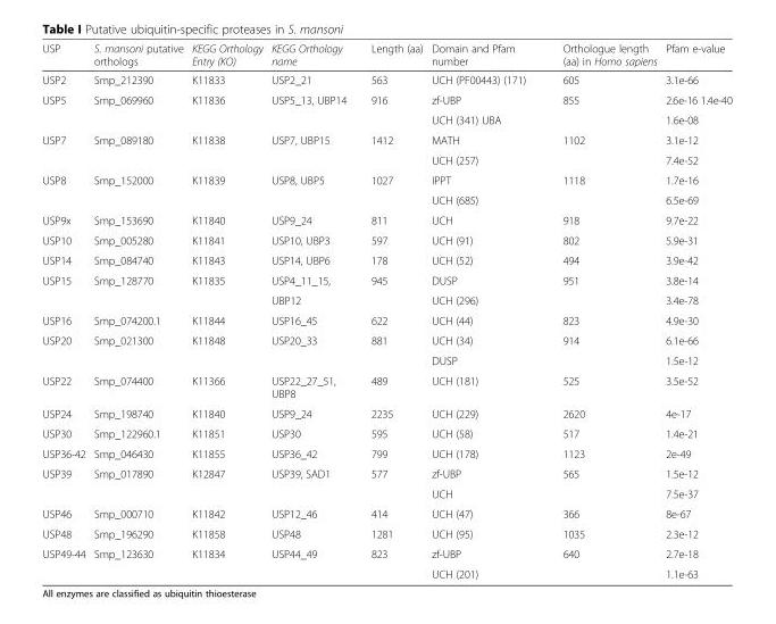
<table><thead><tr><td>USP</td><td>S. mansoni putative orthologs</td><td>KEGG Orthology Entry (KO)</td><td>KEGG Orthology name</td><td>Length (aa)</td><td>Domain and Pfam number</td><td>Orthologue length (aa) in Homo sapiens</td><td>Pfam e-value</td></tr></thead><tbody><tr><td>USP2</td><td>Smp_212390</td><td>K11833</td><td>USP2_21</td><td>563</td><td>UCH (PF00443) (171)</td><td>605</td><td>3.1e-66</td></tr><tr><td rowspan="2">USP5</td><td>Smp_069960</td><td>K11836</td><td>USP5_13, UBP14</td><td>916</td><td>zf-UBP</td><td>855</td><td>2.6e-16 1.4e-40</td></tr><tr><td></td><td></td><td></td><td></td><td>UCH (341) UBA</td><td></td><td>1.6e-08</td></tr><tr><td rowspan="2">USP7</td><td>Smp_089180</td><td>K11838</td><td>USP7, UBP15</td><td>1412</td><td>MATH</td><td>1102</td><td>3.1e-12</td></tr><tr><td></td><td></td><td></td><td></td><td>UCH (257)</td><td></td><td>7.4e-52</td></tr><tr><td rowspan="2">USP8</td><td>Smp_152000</td><td>K11839</td><td>USP8, UBP5</td><td>1027</td><td>IPPT</td><td>1118</td><td>1.7e-16</td></tr><tr><td></td><td></td><td></td><td></td><td>UCH (685)</td><td></td><td>6.5e-69</td></tr><tr><td>USP9x</td><td>Smp_153690</td><td>K11840</td><td>USP9_24</td><td>811</td><td>UCH</td><td>918</td><td>9.7e-22</td></tr><tr><td>USP10</td><td>Smp_005280</td><td>K11841</td><td>USP10, UBP3</td><td>597</td><td>UCH (91)</td><td>802</td><td>5.9e-31</td></tr><tr><td>USP14</td><td>Smp_084740</td><td>K11843</td><td>USP14, UBP6</td><td>178</td><td>UCH (52)</td><td>494</td><td>3.9e-42</td></tr><tr><td rowspan="2">USP15</td><td>Smp_128770</td><td>K11835</td><td>USP4_11_15,</td><td>945</td><td>DUSP</td><td>951</td><td>3.8e-14</td></tr><tr><td></td><td></td><td>UBP12</td><td></td><td>UCH (296)</td><td></td><td>3.4e-78</td></tr><tr><td>USP16</td><td>Smp_074200.1</td><td>K11844</td><td>USP16_45</td><td>622</td><td>UCH (44)</td><td>823</td><td>4.9e-30</td></tr><tr><td rowspan="2">USP20</td><td>Smp_021300</td><td>K11848</td><td>USP20_33</td><td>881</td><td>UCH (34)</td><td>914</td><td>6.1e-66</td></tr><tr><td></td><td></td><td></td><td></td><td>DUSP</td><td></td><td>1.5e-12</td></tr><tr><td>USP22</td><td>Smp_074400</td><td>K11366</td><td>USP22_27_51, UBP8</td><td>489</td><td>UCH (181)</td><td>525</td><td>3.5e-52</td></tr><tr><td>USP24</td><td>Smp_198740</td><td>K11840</td><td>USP9_24</td><td>2235</td><td>UCH (229)</td><td>2620</td><td>4e-17</td></tr><tr><td>USP30</td><td>Smp_122960.1</td><td>K11851</td><td>USP30</td><td>595</td><td>UCH (58)</td><td>517</td><td>1.4e-21</td></tr><tr><td>USP36-42</td><td>Smp_046430</td><td>K11855</td><td>USP36_42</td><td>799</td><td>UCH (178)</td><td>1123</td><td>2e-49</td></tr><tr><td rowspan="2">USP39</td><td>Smp_017890</td><td>K12847</td><td>USP39, SAD1</td><td>577</td><td>zf-UBP</td><td>565</td><td>1.5e-12</td></tr><tr><td></td><td></td><td></td><td></td><td>UCH</td><td></td><td>7.5e-37</td></tr><tr><td>USP46</td><td>Smp_000710</td><td>K11842</td><td>USP12_46</td><td>414</td><td>UCH (47)</td><td>366</td><td>8e-67</td></tr><tr><td>USP48</td><td>Smp_196290</td><td>K11858</td><td>USP48</td><td>1281</td><td>UCH (95)</td><td>1035</td><td>2.3e-12</td></tr><tr><td rowspan="2">USP49-44</td><td>Smp_123630</td><td>K11834</td><td>USP44_49</td><td>823</td><td>zf-UBP</td><td>640</td><td>2.7e-18</td></tr><tr><td></td><td></td><td></td><td></td><td>UCH (201)</td><td></td><td>1.1e-63</td></tr></tbody></table>